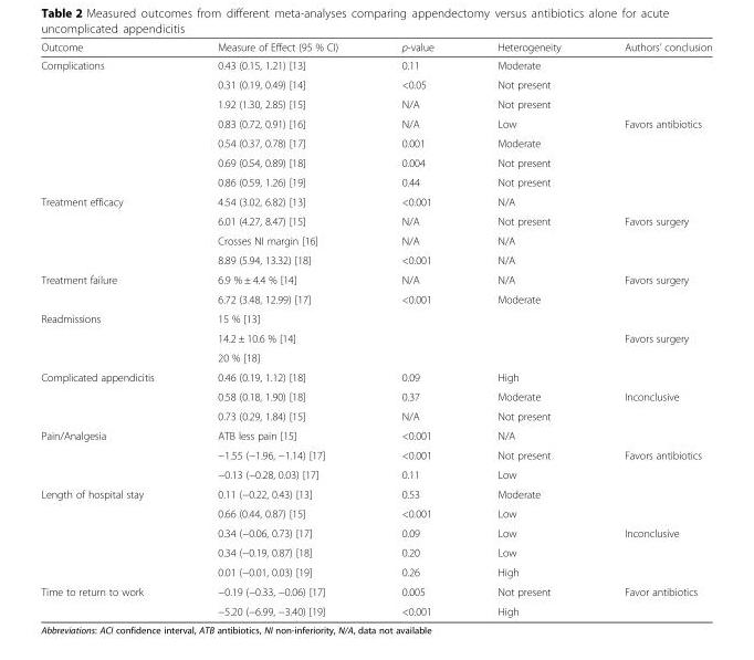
<table><thead><tr><td>Outcome</td><td>Measure of Effect (95 % CI)</td><td>p-value</td><td>Heterogeneity</td><td>Authors’ conclusion</td></tr></thead><tbody><tr><td rowspan="7">Complications</td><td>0.43 (0.15, 1.21) [13]</td><td>0.11</td><td>Moderate</td><td></td></tr><tr><td>0.31 (0.19, 0.49) [14]</td><td>&lt;0.05</td><td>Not present</td><td></td></tr><tr><td>1.92 (1.30, 2.85) [15]</td><td>N/A</td><td>Not present</td><td></td></tr><tr><td>0.83 (0.72, 0.91) [16]</td><td>N/A</td><td>Low</td><td>Favors antibiotics</td></tr><tr><td>0.54 (0.37, 0.78) [17]</td><td>0.001</td><td>Moderate</td><td></td></tr><tr><td>0.69 (0.54, 0.89) [18]</td><td>0.004</td><td>Not present</td><td></td></tr><tr><td>0.86 (0.59, 1.26) [19]</td><td>0.44</td><td>Not present</td><td></td></tr><tr><td rowspan="4">Treatment efficacy</td><td>4.54 (3.02, 6.82) [13]</td><td>&lt;0.001</td><td>N/A</td><td></td></tr><tr><td>6.01 (4.27, 8.47) [15]</td><td>N/A</td><td>Not present</td><td>Favors surgery</td></tr><tr><td>Crosses NI margin [16]</td><td>N/A</td><td>N/A</td><td></td></tr><tr><td>8.89 (5.94, 13.32) [18]</td><td>&lt;0.001</td><td>N/A</td><td></td></tr><tr><td rowspan="2">Treatment failure</td><td>6.9 % ± 4.4 % [14]</td><td>N/A</td><td>N/A</td><td>Favors surgery</td></tr><tr><td>6.72 (3.48, 12.99) [17]</td><td>&lt;0.001</td><td>Moderate</td><td></td></tr><tr><td rowspan="3">Readmissions</td><td>15 % [13]</td><td></td><td></td><td></td></tr><tr><td>14.2 ± 10.6 % [14]</td><td></td><td></td><td>Favors surgery</td></tr><tr><td>20 % [18]</td><td></td><td></td><td></td></tr><tr><td rowspan="3">Complicated appendicitis</td><td>0.46 (0.19, 1.12) [18]</td><td>0.09</td><td>High</td><td></td></tr><tr><td>0.58 (0.18, 1.90) [18]</td><td>0.37</td><td>Moderate</td><td>Inconclusive</td></tr><tr><td>0.73 (0.29, 1.84) [15]</td><td>N/A</td><td>Not present</td><td></td></tr><tr><td rowspan="3">Pain/Analgesia</td><td>ATB less pain [15]</td><td>&lt;0.001</td><td>N/A</td><td></td></tr><tr><td>−1.55 (−1.96, −1.14) [17]</td><td>&lt;0.001</td><td>Not present</td><td>Favors antibiotics</td></tr><tr><td>−0.13 (−0.28, 0.03) [17]</td><td>0.11</td><td>Low</td><td></td></tr><tr><td rowspan="5">Length of hospital stay</td><td>0.11 (−0.22, 0.43) [13]</td><td>0.53</td><td>Moderate</td><td></td></tr><tr><td>0.66 (0.44, 0.87) [15]</td><td>&lt;0.001</td><td>Low</td><td></td></tr><tr><td>0.34 (−0.06, 0.73) [17]</td><td>0.09</td><td>Low</td><td>Inconclusive</td></tr><tr><td>0.34 (−0.19, 0.87) [18]</td><td>0.20</td><td>Low</td><td></td></tr><tr><td>0.01 (−0.01, 0.03) [19]</td><td>0.26</td><td>High</td><td></td></tr><tr><td rowspan="2">Time to return to work</td><td>−0.19 (−0.33, −0.06) [17]</td><td>0.005</td><td>Not present</td><td>Favor antibiotics</td></tr><tr><td>−5.20 (−6.99, −3.40) [19]</td><td>&lt;0.001</td><td>High</td><td></td></tr></tbody></table>